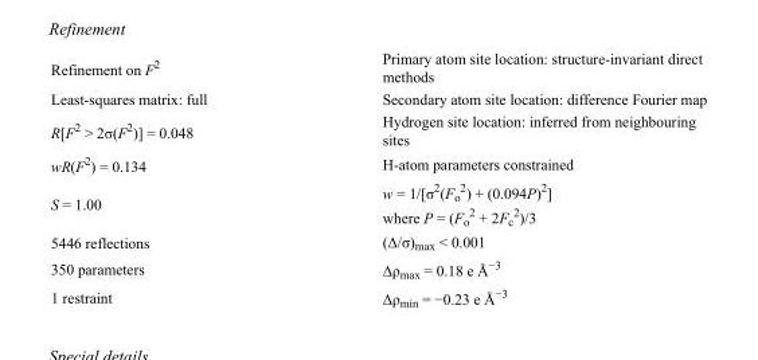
<table><tbody><tr><td>Refinement on F<sup>2</sup></td><td>Primary atom site location: structure-invariant direct methods</td></tr><tr><td>Least-squares matrix: full</td><td>Secondary atom site location: difference Fourier map</td></tr><tr><td>R[F<sup>2</sup> &gt; 2σ(F<sup>2</sup>)] = 0.048</td><td>Hydrogen site location: inferred from neighbouring sites</td></tr><tr><td>wR(F<sup>2</sup>) = 0.134</td><td>H-atom parameters constrained</td></tr><tr><td>S = 1.00</td><td>w = 1/[σ<sup>2</sup>(F<sub>o</sub> <sup>2</sup>) + (0.094P)<sup>2</sup>] where P = (F<sub>o</sub> <sup>2</sup> + 2F<sub>c</sub> <sup>2</sup>)/3</td></tr><tr><td>5446 reflections</td><td>(Δ/σ)<sub>max</sub> &lt; 0.001</td></tr><tr><td>350 parameters</td><td>Δρ<sub>max</sub> = 0.18 e Å<sup>−3</sup></td></tr><tr><td>1 restraint</td><td>Δρ<sub>min</sub> = −0.23 e Å<sup>−3</sup></td></tr></tbody></table>